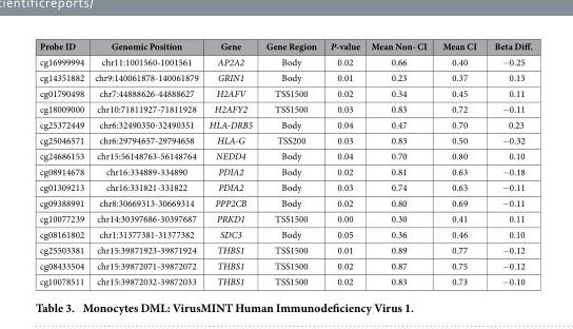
<table><thead><tr><td>Probe ID</td><td>Genomic Position</td><td>Gene</td><td>Gene Region</td><td>P-value</td><td>Mean Non- CI</td><td>Mean CI</td><td>Beta Diff.</td></tr></thead><tbody><tr><td>cg16999994</td><td>chr11:1001560-1001561</td><td>AP2A2</td><td>Body</td><td>0.02</td><td>0.66</td><td>0.40</td><td>− 0.25</td></tr><tr><td>cg14351882</td><td>chr9:140061878-140061879</td><td>GRIN1</td><td>Body</td><td>0.01</td><td>0.23</td><td>0.37</td><td>0.13</td></tr><tr><td>cg01790498</td><td>chr7:44888626-44888627</td><td>H2AFV</td><td>TSS1500</td><td>0.02</td><td>0.34</td><td>0.45</td><td>0.11</td></tr><tr><td>cg18009000</td><td>chr10:71811927-71811928</td><td>H2AFY2</td><td>TSS1500</td><td>0.03</td><td>0.83</td><td>0.72</td><td>− 0.11</td></tr><tr><td>cg25372449</td><td>chr6:32490350-32490351</td><td>HLA-DRB5</td><td>Body</td><td>0.04</td><td>0.47</td><td>0.70</td><td>0.23</td></tr><tr><td>cg25046571</td><td>chr6:29794657-29794658</td><td>HLA-G</td><td>TSS200</td><td>0.03</td><td>0.83</td><td>0.50</td><td>− 0.32</td></tr><tr><td>cg24686153</td><td>chr15:56148763-56148764</td><td>NEDD4</td><td>Body</td><td>0.04</td><td>0.70</td><td>0.80</td><td>0.10</td></tr><tr><td>cg08914678</td><td>chr16:334889-334890</td><td>PDIA2</td><td>Body</td><td>0.02</td><td>0.81</td><td>0.63</td><td>− 0.18</td></tr><tr><td>cg01309213</td><td>chr16:331821-331822</td><td>PDIA2</td><td>Body</td><td>0.03</td><td>0.74</td><td>0.63</td><td>− 0.11</td></tr><tr><td>cg09388991</td><td>chr8:30669313-30669314</td><td>PPP2CB</td><td>Body</td><td>0.02</td><td>0.80</td><td>0.69</td><td>− 0.11</td></tr><tr><td>cg10077239</td><td>chr14:30397686-30397687</td><td>PRKD1</td><td>TSS1500</td><td>0.00</td><td>0.30</td><td>0.41</td><td>0.11</td></tr><tr><td>cg08161802</td><td>chr1:31377381-31377382</td><td>SDC3</td><td>Body</td><td>0.05</td><td>0.36</td><td>0.46</td><td>0.10</td></tr><tr><td>cg25503381</td><td>chr15:39871923-39871924</td><td>THBS1</td><td>TSS1500</td><td>0.01</td><td>0.89</td><td>0.77</td><td>− 0.12</td></tr><tr><td>cg08433504</td><td>chr15:39872071-39872072</td><td>THBS1</td><td>TSS1500</td><td>0.02</td><td>0.87</td><td>0.75</td><td>− 0.12</td></tr><tr><td>cg10078511</td><td>chr15:39872032-39872033</td><td>THBS1</td><td>TSS1500</td><td>0.02</td><td>0.83</td><td>0.73</td><td>− 0.10</td></tr></tbody></table>